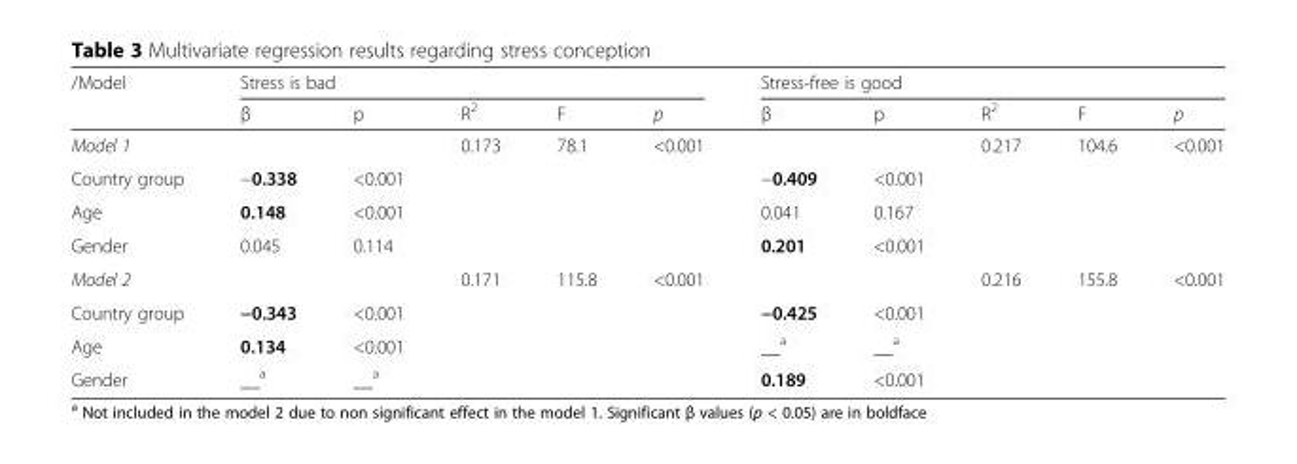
<table><thead><tr><td rowspan="2">/Model</td><td colspan="5">Stress is bad</td><td colspan="5">Stress-free is good</td></tr><tr><td>β</td><td>p</td><td>R<sup>2</sup></td><td>F</td><td>p</td><td>β</td><td>p</td><td>R<sup>2</sup></td><td>F</td><td>p</td></tr></thead><tbody><tr><td>Model 1</td><td></td><td></td><td>0.173</td><td>78.1</td><td>&lt;0.001</td><td></td><td></td><td>0.217</td><td>104.6</td><td>&lt;0.001</td></tr><tr><td>Country group</td><td>−0.338</td><td>&lt;0.001</td><td></td><td></td><td></td><td>−0.409</td><td>&lt;0.001</td><td></td><td></td><td></td></tr><tr><td>Age</td><td>0.148</td><td>&lt;0.001</td><td></td><td></td><td></td><td>0.041</td><td>0.167</td><td></td><td></td><td></td></tr><tr><td>Gender</td><td>0.045</td><td>0.114</td><td></td><td></td><td></td><td>0.201</td><td>&lt;0.001</td><td></td><td></td><td></td></tr><tr><td>Model 2</td><td></td><td></td><td>0.171</td><td>115.8</td><td>&lt;0.001</td><td></td><td></td><td>0.216</td><td>155.8</td><td>&lt;0.001</td></tr><tr><td>Country group</td><td>−0.343</td><td>&lt;0.001</td><td></td><td></td><td></td><td>−0.425</td><td>&lt;0.001</td><td></td><td></td><td></td></tr><tr><td>Age</td><td>0.134</td><td>&lt;0.001</td><td></td><td></td><td></td><td>__<sup>a</sup></td><td>__<sup>a</sup></td><td></td><td></td><td></td></tr><tr><td>Gender</td><td>__<sup>a</sup></td><td>__<sup>a</sup></td><td></td><td></td><td></td><td>0.189</td><td>&lt;0.001</td><td></td><td></td><td></td></tr></tbody></table>